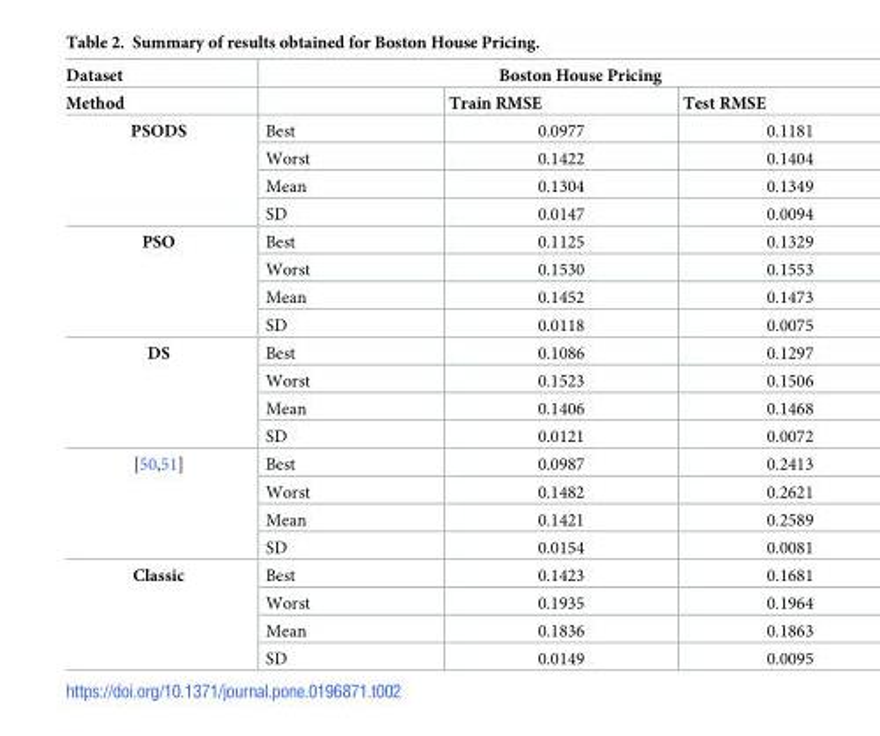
<table><thead><tr><td rowspan="2">Dataset Method</td><td colspan="3">Boston House Pricing</td></tr><tr><td></td><td>Train RMSE</td><td>Test RMSE</td></tr></thead><tbody><tr><td rowspan="4">PSODS</td><td>Best</td><td>0.0977</td><td>0.1181</td></tr><tr><td>Worst</td><td>0.1422</td><td>0.1404</td></tr><tr><td>Mean</td><td>0.1304</td><td>0.1349</td></tr><tr><td>SD</td><td>0.0147</td><td>0.0094</td></tr><tr><td rowspan="4">PSO</td><td>Best</td><td>0.1125</td><td>0.1329</td></tr><tr><td>Worst</td><td>0.1530</td><td>0.1553</td></tr><tr><td>Mean</td><td>0.1452</td><td>0.1473</td></tr><tr><td>SD</td><td>0.0118</td><td>0.0075</td></tr><tr><td rowspan="4">DS</td><td>Best</td><td>0.1086</td><td>0.1297</td></tr><tr><td>Worst</td><td>0.1523</td><td>0.1506</td></tr><tr><td>Mean</td><td>0.1406</td><td>0.1468</td></tr><tr><td>SD</td><td>0.0121</td><td>0.0072</td></tr><tr><td rowspan="4">[50,51]</td><td>Best</td><td>0.0987</td><td>0.2413</td></tr><tr><td>Worst</td><td>0.1482</td><td>0.2621</td></tr><tr><td>Mean</td><td>0.1421</td><td>0.2589</td></tr><tr><td>SD</td><td>0.0154</td><td>0.0081</td></tr><tr><td rowspan="4">Classic</td><td>Best</td><td>0.1423</td><td>0.1681</td></tr><tr><td>Worst</td><td>0.1935</td><td>0.1964</td></tr><tr><td>Mean</td><td>0.1836</td><td>0.1863</td></tr><tr><td>SD</td><td>0.0149</td><td>0.0095</td></tr></tbody></table>